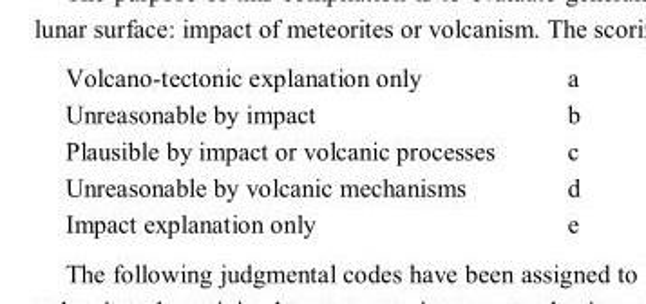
<table><tbody><tr><td>Volcano-tectonic explanation only</td><td>a</td></tr><tr><td>Unreasonable by impact</td><td>b</td></tr><tr><td>Plausible by impact or volcanic processes</td><td>c</td></tr><tr><td>Unreasonable by volcanic mechanisms</td><td>d</td></tr><tr><td>Impact explanation only</td><td>e</td></tr></tbody></table>